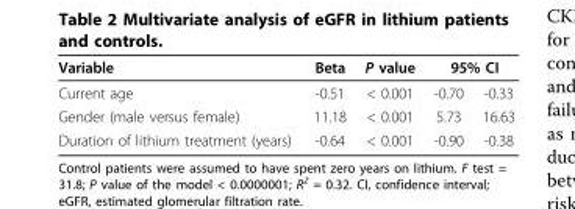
<table><thead><tr><td rowspan="2">Variable Current age</td><td rowspan="2">Beta -0.51</td><td rowspan="2">P value &lt; 0.001</td><td colspan="2">95% CI</td></tr><tr><td>-0.70</td><td>-0.33</td></tr></thead><tbody><tr><td>Gender (male versus female)</td><td>11.18</td><td>&lt; 0.001</td><td>5.73</td><td>16.63</td></tr><tr><td>Duration of lithium treatment (years)</td><td>-0.64</td><td>&lt; 0.001</td><td>-0.90</td><td>-0.38</td></tr></tbody></table>